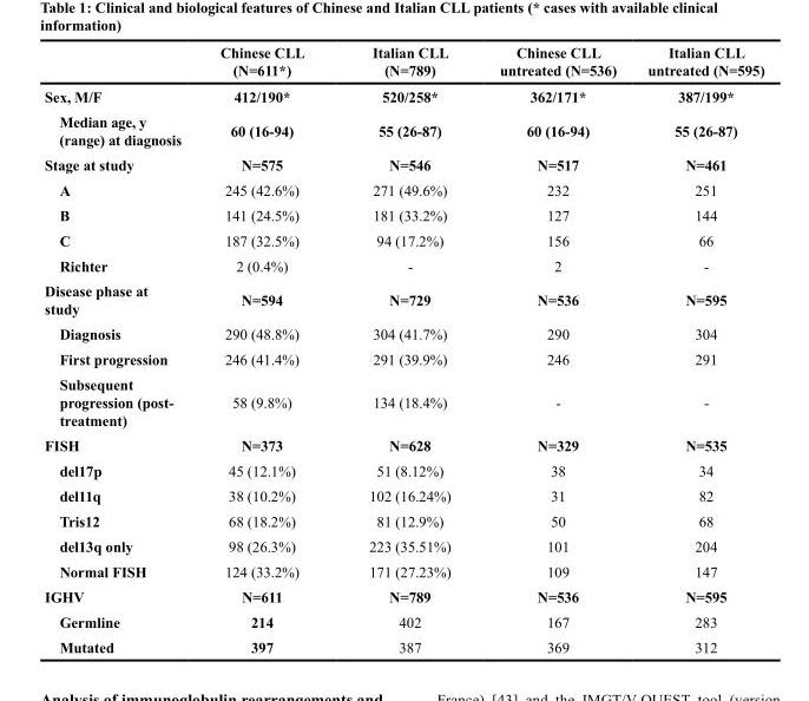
<table><thead><tr><td></td><td>Chinese CLL (N=611*)</td><td>Italian CLL (N=789)</td><td>Chinese CLL untreated (N=536)</td><td>Italian CLL untreated (N=595)</td></tr></thead><tbody><tr><td>Sex, M/F</td><td>412/190*</td><td>520/258*</td><td>362/171*</td><td>387/199*</td></tr><tr><td>Median age, y (range) at diagnosis</td><td>60 (16-94)</td><td>55 (26-87)</td><td>60 (16-94)</td><td>55 (26-87)</td></tr><tr><td>Stage at study</td><td>N=575</td><td>N=546</td><td>N=517</td><td>N=461</td></tr><tr><td>A</td><td>245 (42.6%)</td><td>271 (49.6%)</td><td>232</td><td>251</td></tr><tr><td>B</td><td>141 (24.5%)</td><td>181 (33.2%)</td><td>127</td><td>144</td></tr><tr><td>C</td><td>187 (32.5%)</td><td>94 (17.2%)</td><td>156</td><td>66</td></tr><tr><td>Richter</td><td>2 (0.4%)</td><td>-</td><td>2</td><td>-</td></tr><tr><td>Disease phase at study</td><td>N=594</td><td>N=729</td><td>N=536</td><td>N=595</td></tr><tr><td>Diagnosis</td><td>290 (48.8%)</td><td>304 (41.7%)</td><td>290</td><td>304</td></tr><tr><td>First progression</td><td>246 (41.4%)</td><td>291 (39.9%)</td><td>246</td><td>291</td></tr><tr><td>Subsequent progression (post- treatment)</td><td>58 (9.8%)</td><td>134 (18.4%)</td><td>-</td><td>-</td></tr><tr><td>FISH</td><td>N=373</td><td>N=628</td><td>N=329</td><td>N=535</td></tr><tr><td>del17p</td><td>45 (12.1%)</td><td>51 (8.12%)</td><td>38</td><td>34</td></tr><tr><td>del11q</td><td>38 (10.2%)</td><td>102 (16.24%)</td><td>31</td><td>82</td></tr><tr><td>Tris12</td><td>68 (18.2%)</td><td>81 (12.9%)</td><td>50</td><td>68</td></tr><tr><td>del13q only</td><td>98 (26.3%)</td><td>223 (35.51%)</td><td>101</td><td>204</td></tr><tr><td>Normal FISH</td><td>124 (33.2%)</td><td>171 (27.23%)</td><td>109</td><td>147</td></tr><tr><td>IGHV</td><td>N=611</td><td>N=789</td><td>N=536</td><td>N=595</td></tr><tr><td>Germline</td><td>214</td><td>402</td><td>167</td><td>283</td></tr><tr><td>Mutated</td><td>397</td><td>387</td><td>369</td><td>312</td></tr></tbody></table>